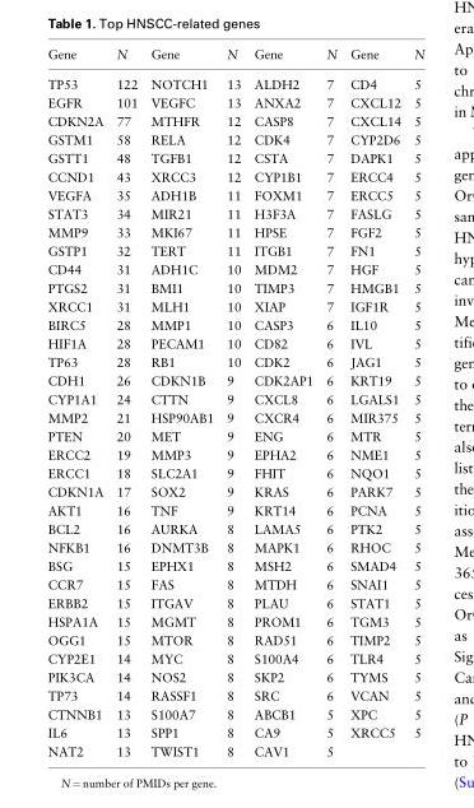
<table><thead><tr><td>Gene</td><td>N</td><td>Gene</td><td>N</td><td>Gene</td><td>N</td><td>Gene</td><td>N</td></tr></thead><tbody><tr><td>TP53</td><td>122</td><td>NOTCH1</td><td>13</td><td>ALDH2</td><td>7</td><td>CD4</td><td>5</td></tr><tr><td>EGFR</td><td>101</td><td>VEGFC</td><td>13</td><td>ANXA2</td><td>7</td><td>CXCL12</td><td>5</td></tr><tr><td>CDKN2A</td><td>77</td><td>MTHFR</td><td>12</td><td>CASP8</td><td>7</td><td>CXCL14</td><td>5</td></tr><tr><td>GSTM1</td><td>58</td><td>RELA</td><td>12</td><td>CDK4</td><td>7</td><td>CYP2D6</td><td>5</td></tr><tr><td>GSTT1</td><td>48</td><td>TGFB1</td><td>12</td><td>CSTA</td><td>7</td><td>DAPK1</td><td>5</td></tr><tr><td>CCND1</td><td>43</td><td>XRCC3</td><td>12</td><td>CYP1B1</td><td>7</td><td>ERCC4</td><td>5</td></tr><tr><td>VEGFA</td><td>35</td><td>ADH1B</td><td>11</td><td>FOXM1</td><td>7</td><td>ERCC5</td><td>5</td></tr><tr><td>STAT3</td><td>34</td><td>MIR21</td><td>11</td><td>H3F3A</td><td>7</td><td>FASLG</td><td>5</td></tr><tr><td>MMP9</td><td>33</td><td>MKI67</td><td>11</td><td>HPSE</td><td>7</td><td>FGF2</td><td>5</td></tr><tr><td>GSTP1</td><td>32</td><td>TERT</td><td>11</td><td>ITGB1</td><td>7</td><td>FN1</td><td>5</td></tr><tr><td>CD44</td><td>31</td><td>ADH1C</td><td>10</td><td>MDM2</td><td>7</td><td>HGF</td><td>5</td></tr><tr><td>PTGS2</td><td>31</td><td>BMI1</td><td>10</td><td>TIMP3</td><td>7</td><td>HMGB1</td><td>5</td></tr><tr><td>XRCC1</td><td>31</td><td>MLH1</td><td>10</td><td>XIAP</td><td>7</td><td>IGF1R</td><td>5</td></tr><tr><td>BIRC5</td><td>28</td><td>MMP1</td><td>10</td><td>CASP3</td><td>6</td><td>IL10</td><td>5</td></tr><tr><td>HIF1A</td><td>28</td><td>PECAM1</td><td>10</td><td>CD82</td><td>6</td><td>IVL</td><td>5</td></tr><tr><td>TP63</td><td>28</td><td>RB1</td><td>10</td><td>CDK2</td><td>6</td><td>JAG1</td><td>5</td></tr><tr><td>CDH1</td><td>26</td><td>CDKN1B</td><td>9</td><td>CDK2AP1</td><td>6</td><td>KRT19</td><td>5</td></tr><tr><td>CYP1A1</td><td>24</td><td>CTTN</td><td>9</td><td>CXCL8</td><td>6</td><td>LGALS1</td><td>5</td></tr><tr><td>MMP2</td><td>21</td><td>HSP90AB1</td><td>9</td><td>CXCR4</td><td>6</td><td>MIR375</td><td>5</td></tr><tr><td>PTEN</td><td>20</td><td>MET</td><td>9</td><td>ENG</td><td>6</td><td>MTR</td><td>5</td></tr><tr><td>ERCC2</td><td>19</td><td>MMP3</td><td>9</td><td>EPHA2</td><td>6</td><td>NME1</td><td>5</td></tr><tr><td>ERCC1</td><td>18</td><td>SLC2A1</td><td>9</td><td>FHIT</td><td>6</td><td>NQO1</td><td>5</td></tr><tr><td>CDKN1A</td><td>17</td><td>SOX2</td><td>9</td><td>KRAS</td><td>6</td><td>PARK7</td><td>5</td></tr><tr><td>AKT1</td><td>16</td><td>TNF</td><td>9</td><td>KRT14</td><td>6</td><td>PCNA</td><td>5</td></tr><tr><td>BCL2</td><td>16</td><td>AURKA</td><td>8</td><td>LAMA5</td><td>6</td><td>PTK2</td><td>5</td></tr><tr><td>NFKB1</td><td>16</td><td>DNMT3B</td><td>8</td><td>MAPK1</td><td>6</td><td>RHOC</td><td>5</td></tr><tr><td>BSG</td><td>15</td><td>EPHX1</td><td>8</td><td>MSH2</td><td>6</td><td>SMAD4</td><td>5</td></tr><tr><td>CCR7</td><td>15</td><td>FAS</td><td>8</td><td>MTDH</td><td>6</td><td>SNAI1</td><td>5</td></tr><tr><td>ERBB2</td><td>15</td><td>ITGAV</td><td>8</td><td>PLAU</td><td>6</td><td>STAT1</td><td>5</td></tr><tr><td>HSPA1A</td><td>15</td><td>MGMT</td><td>8</td><td>PROM1</td><td>6</td><td>TGM3</td><td>5</td></tr><tr><td>OGG1</td><td>15</td><td>MTOR</td><td>8</td><td>RAD51</td><td>6</td><td>TIMP2</td><td>5</td></tr><tr><td>CYP2E1</td><td>14</td><td>MYC</td><td>8</td><td>S100A4</td><td>6</td><td>TLR4</td><td>5</td></tr><tr><td>PIK3CA</td><td>14</td><td>NOS2</td><td>8</td><td>SKP2</td><td>6</td><td>TYMS</td><td>5</td></tr><tr><td>TP73</td><td>14</td><td>RASSF1</td><td>8</td><td>SRC</td><td>6</td><td>VCAN</td><td>5</td></tr><tr><td>CTNNB1</td><td>13</td><td>S100A7</td><td>8</td><td>ABCB1</td><td>5</td><td>XPC</td><td>5</td></tr><tr><td>IL6</td><td>13</td><td>SPP1</td><td>8</td><td>CA9</td><td>5</td><td>XRCC5</td><td>5</td></tr><tr><td>NAT2</td><td>13</td><td>TWIST1</td><td>8</td><td>CAV1</td><td>5</td><td></td><td></td></tr></tbody></table>